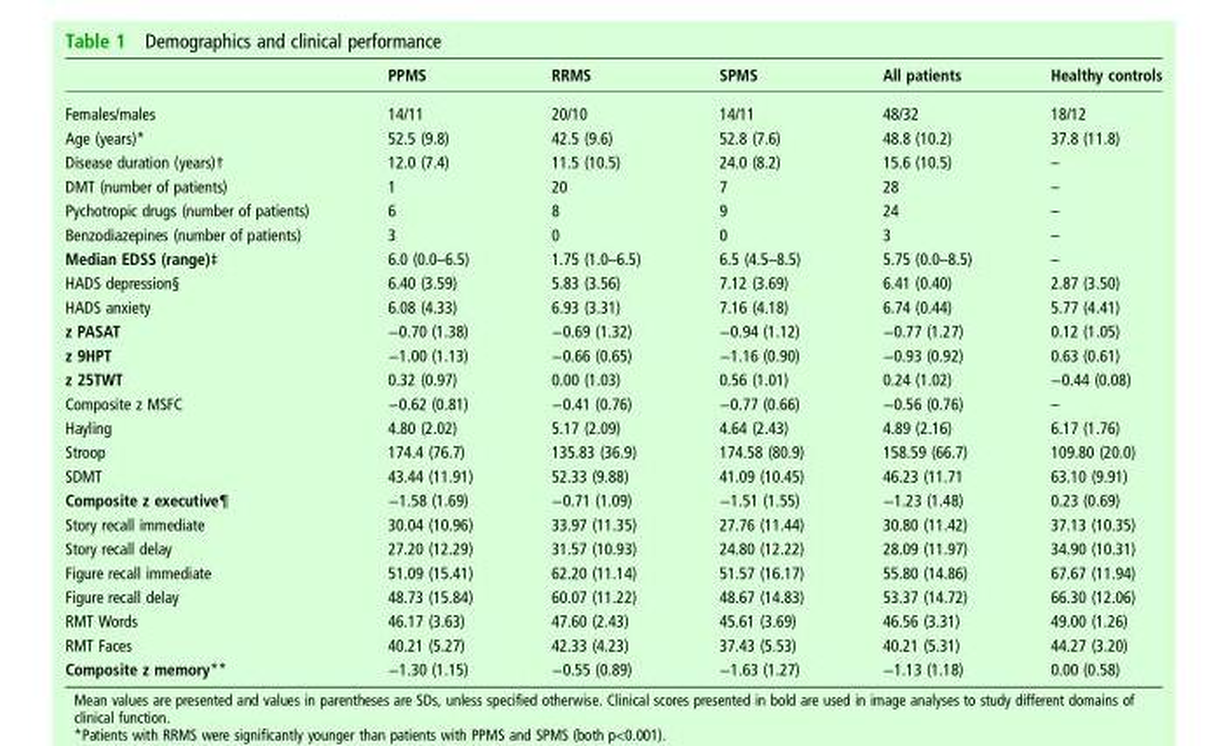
<table><thead><tr><td></td><td>PPMS</td><td>RRMS</td><td>SPMS</td><td>All patients</td><td>Healthy controls</td></tr></thead><tbody><tr><td>Females/males</td><td>14/11</td><td>20/10</td><td>14/11</td><td>48/32</td><td>18/12</td></tr><tr><td>Age (years)*</td><td>52.5 (9.8)</td><td>42.5 (9.6)</td><td>52.8 (7.6)</td><td>48.8 (10.2)</td><td>37.8 (11.8)</td></tr><tr><td>Disease duration (years)†</td><td>12.0 (7.4)</td><td>11.5 (10.5)</td><td>24.0 (8.2)</td><td>15.6 (10.5)</td><td>–</td></tr><tr><td>DMT (number of patients)</td><td>1</td><td>20</td><td>7</td><td>28</td><td>–</td></tr><tr><td>Pychotropic drugs (number of patients)</td><td>6</td><td>8</td><td>9</td><td>24</td><td>–</td></tr><tr><td>Benzodiazepines (number of patients)</td><td>3</td><td>0</td><td>0</td><td>3</td><td>–</td></tr><tr><td>Median EDSS (range)‡</td><td>6.0 (0.0–6.5)</td><td>1.75 (1.0–6.5)</td><td>6.5 (4.5–8.5)</td><td>5.75 (0.0–8.5)</td><td>–</td></tr><tr><td>HADS depression§</td><td>6.40 (3.59)</td><td>5.83 (3.56)</td><td>7.12 (3.69)</td><td>6.41 (0.40)</td><td>2.87 (3.50)</td></tr><tr><td>HADS anxiety</td><td>6.08 (4.33)</td><td>6.93 (3.31)</td><td>7.16 (4.18)</td><td>6.74 (0.44)</td><td>5.77 (4.41)</td></tr><tr><td>z PASAT</td><td>−0.70 (1.38)</td><td>−0.69 (1.32)</td><td>−0.94 (1.12)</td><td>−0.77 (1.27)</td><td>0.12 (1.05)</td></tr><tr><td>z 9HPT</td><td>−1.00 (1.13)</td><td>−0.66 (0.65)</td><td>−1.16 (0.90)</td><td>−0.93 (0.92)</td><td>0.63 (0.61)</td></tr><tr><td>z 25TWT</td><td>0.32 (0.97)</td><td>0.00 (1.03)</td><td>0.56 (1.01)</td><td>0.24 (1.02)</td><td>−0.44 (0.08)</td></tr><tr><td>Composite z MSFC</td><td>−0.62 (0.81)</td><td>−0.41 (0.76)</td><td>−0.77 (0.66)</td><td>−0.56 (0.76)</td><td>–</td></tr><tr><td>Hayling</td><td>4.80 (2.02)</td><td>5.17 (2.09)</td><td>4.64 (2.43)</td><td>4.89 (2.16)</td><td>6.17 (1.76)</td></tr><tr><td>Stroop</td><td>174.4 (76.7)</td><td>135.83 (36.9)</td><td>174.58 (80.9)</td><td>158.59 (66.7)</td><td>109.80 (20.0)</td></tr><tr><td>SDMT</td><td>43.44 (11.91)</td><td>52.33 (9.88)</td><td>41.09 (10.45)</td><td>46.23 (11.71</td><td>63.10 (9.91)</td></tr><tr><td>Composite z executive¶</td><td>−1.58 (1.69)</td><td>−0.71 (1.09)</td><td>−1.51 (1.55)</td><td>−1.23 (1.48)</td><td>0.23 (0.69)</td></tr><tr><td>Story recall immediate</td><td>30.04 (10.96)</td><td>33.97 (11.35)</td><td>27.76 (11.44)</td><td>30.80 (11.42)</td><td>37.13 (10.35)</td></tr><tr><td>Story recall delay</td><td>27.20 (12.29)</td><td>31.57 (10.93)</td><td>24.80 (12.22)</td><td>28.09 (11.97)</td><td>34.90 (10.31)</td></tr><tr><td>Figure recall immediate</td><td>51.09 (15.41)</td><td>62.20 (11.14)</td><td>51.57 (16.17)</td><td>55.80 (14.86)</td><td>67.67 (11.94)</td></tr><tr><td>Figure recall delay</td><td>48.73 (15.84)</td><td>60.07 (11.22)</td><td>48.67 (14.83)</td><td>53.37 (14.72)</td><td>66.30 (12.06)</td></tr><tr><td>RMT Words</td><td>46.17 (3.63)</td><td>47.60 (2.43)</td><td>45.61 (3.69)</td><td>46.56 (3.31)</td><td>49.00 (1.26)</td></tr><tr><td>RMT Faces</td><td>40.21 (5.27)</td><td>42.33 (4.23)</td><td>37.43 (5.53)</td><td>40.21 (5.31)</td><td>44.27 (3.20)</td></tr><tr><td>Composite z memory**</td><td>−1.30 (1.15)</td><td>−0.55 (0.89)</td><td>−1.63 (1.27)</td><td>−1.13 (1.18)</td><td>0.00 (0.58)</td></tr></tbody></table>